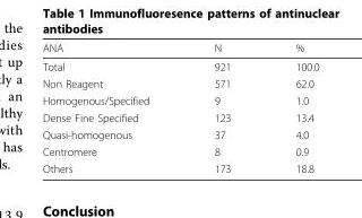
<table><thead><tr><td>ANA</td><td>N</td><td>%</td></tr></thead><tbody><tr><td>Total</td><td>921</td><td>100.0</td></tr><tr><td>Non Reagent</td><td>571</td><td>62.0</td></tr><tr><td>Homogenous/Specified</td><td>9</td><td>1.0</td></tr><tr><td>Dense Fine Specified</td><td>123</td><td>13.4</td></tr><tr><td>Quasi-homogenous</td><td>37</td><td>4.0</td></tr><tr><td>Centromere</td><td>8</td><td>0.9</td></tr><tr><td>Others</td><td>173</td><td>18.8</td></tr></tbody></table>